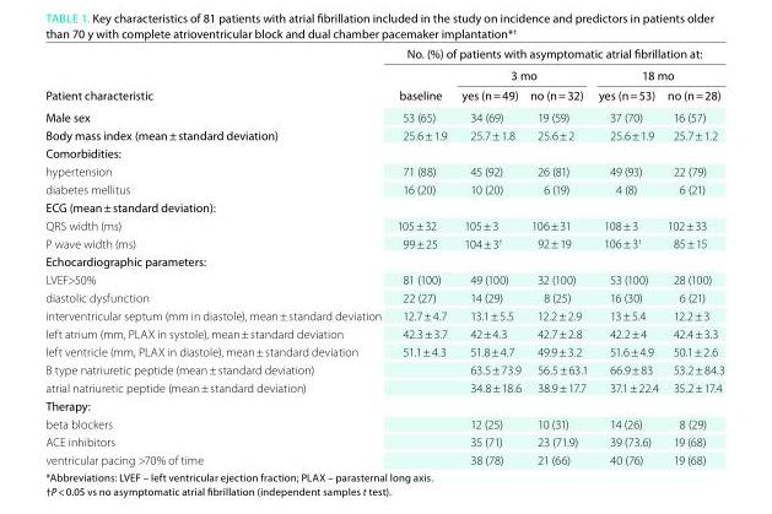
<table><thead><tr><td rowspan="3">Patient characteristic</td><td colspan="5">No. (%) of patients with asymptomatic atrial fibrillation at:</td></tr><tr><td rowspan="2">baseline</td><td colspan="2">3 mo</td><td colspan="2">18 mo</td></tr><tr><td>yes (n = 49)</td><td>no (n = 32)</td><td>yes (n = 53)</td><td>no (n = 28)</td></tr></thead><tbody><tr><td>Male sex</td><td>53 (65)</td><td>34 (69)</td><td>19 (59)</td><td>37 (70)</td><td>16 (57)</td></tr><tr><td>Body mass index (mean ± standard deviation)</td><td>25.6 ± 1.9</td><td>25.7 ± 1.8</td><td>25.6 ± 2</td><td>25.6 ± 1.9</td><td>25.7 ± 1.2</td></tr><tr><td colspan="6">Comorbidities:</td></tr><tr><td>hypertension</td><td>71 (88)</td><td>45 (92)</td><td>26 (81)</td><td>49 (93)</td><td>22 (79)</td></tr><tr><td>diabetes mellitus</td><td>16 (20)</td><td>10 (20)</td><td>6 (19)</td><td>4 (8)</td><td>6 (21)</td></tr><tr><td colspan="6">eCG (mean ± standard deviation):</td></tr><tr><td>QRS width (ms)</td><td>105 ± 32</td><td>105 ± 3</td><td>106 ± 31</td><td>108 ± 3</td><td>102 ± 33</td></tr><tr><td>P wave width (ms)</td><td>99 ± 25</td><td>104 ± 3†</td><td>92 ± 19</td><td>106 ± 3†</td><td>85 ± 15</td></tr><tr><td colspan="6">echocardiographic parameters:</td></tr><tr><td>LVEF&gt;50%</td><td>81 (100)</td><td>49 (100)</td><td>32 (100)</td><td>53 (100)</td><td>28 (100)</td></tr><tr><td>diastolic dysfunction</td><td>22 (27)</td><td>14 (29)</td><td>8 (25)</td><td>16 (30)</td><td>6 (21)</td></tr><tr><td>interventricular septum (mm in diastole), mean ± standard deviation</td><td>12.7 ± 4.7</td><td>13.1 ± 5.5</td><td>12.2 ± 2.9</td><td>13 ± 5.4</td><td>12.2 ± 3</td></tr><tr><td>left atrium (mm, PLAX in systole), mean ± standard deviation</td><td>42.3 ± 3.7</td><td>42 ± 4.3</td><td>42.7 ± 2.8</td><td>42.2 ± 4</td><td>42.4 ± 3.3</td></tr><tr><td>left ventricle (mm, PLAX in diastole), mean ± standard deviation</td><td>51.1 ± 4.3</td><td>51.8 ± 4.7</td><td>49.9 ± 3.2</td><td>51.6 ± 4.9</td><td>50.1 ± 2.6</td></tr><tr><td>B type natriuretic peptide (mean ± standard deviation)</td><td></td><td>63.5 ± 73.9</td><td>56.5 ± 63.1</td><td>66.9 ± 83</td><td>53.2 ± 84.3</td></tr><tr><td>atrial natriuretic peptide (mean ± standard deviation)</td><td></td><td>34.8 ± 18.6</td><td>38.9 ± 17.7</td><td>37.1 ± 22.4</td><td>35.2 ± 17.4</td></tr><tr><td colspan="6">therapy:</td></tr><tr><td>beta blockers</td><td></td><td>12 (25)</td><td>10 (31)</td><td>14 (26)</td><td>8 (29)</td></tr><tr><td>ACE inhibitors</td><td></td><td>35 (71)</td><td>23 (71.9)</td><td>39 (73.6)</td><td>19 (68)</td></tr><tr><td>ventricular pacing &gt;70% of time</td><td></td><td>38 (78)</td><td>21 (66)</td><td>40 (76)</td><td>19 (68)</td></tr></tbody></table>